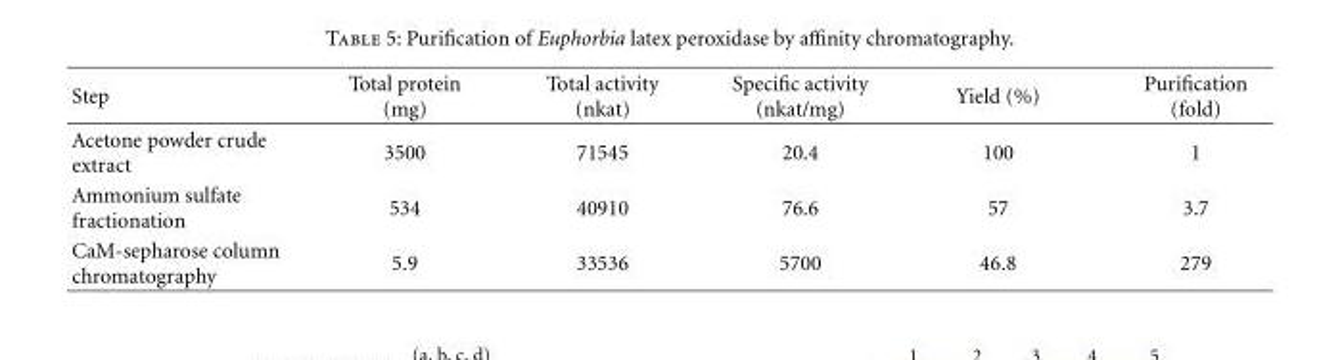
<table><thead><tr><td>Step</td><td>Total protein (mg)</td><td>Total activity (nkat)</td><td>Specific activity (nkat/mg)</td><td>Yield (%)</td><td>Purification (fold)</td></tr></thead><tbody><tr><td>Acetone powder crude extract</td><td>3500</td><td>71545</td><td>20.4</td><td>100</td><td>1</td></tr><tr><td>Ammonium sulfate fractionation</td><td>534</td><td>40910</td><td>76.6</td><td>57</td><td>3.7</td></tr><tr><td>CaM-sepharose column chromatography</td><td>5.9</td><td>33536</td><td>5700</td><td>46.8</td><td>279</td></tr></tbody></table>